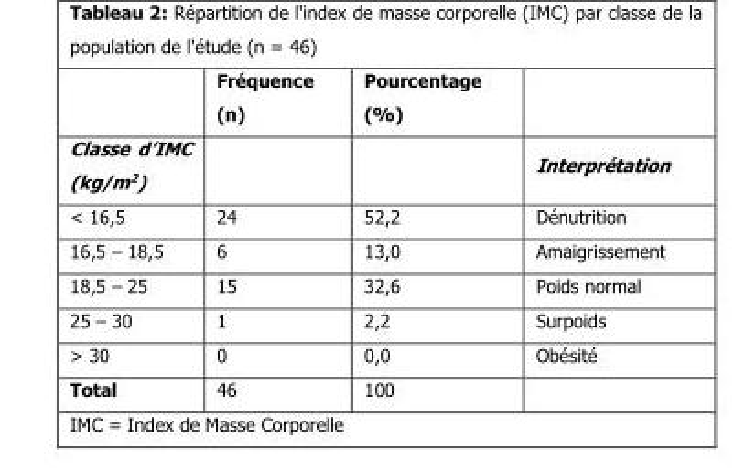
<table><thead><tr><td></td><td>Fréquence (n)</td><td>Pourcentage (%)</td><td></td></tr></thead><tbody><tr><td>Classe d’IMC (kg/m<sup>2</sup>)</td><td></td><td></td><td>Interprétation</td></tr><tr><td>&lt; 16,5</td><td>24</td><td>52,2</td><td>Dénutrition</td></tr><tr><td>16,5 – 18,5</td><td>6</td><td>13,0</td><td>Amaigrissement</td></tr><tr><td>18,5 – 25</td><td>15</td><td>32,6</td><td>Poids normal</td></tr><tr><td>25 – 30</td><td>1</td><td>2,2</td><td>Surpoids</td></tr><tr><td>&gt; 30</td><td>0</td><td>0,0</td><td>Obésité</td></tr><tr><td>Total</td><td>46</td><td>100</td><td></td></tr></tbody></table>